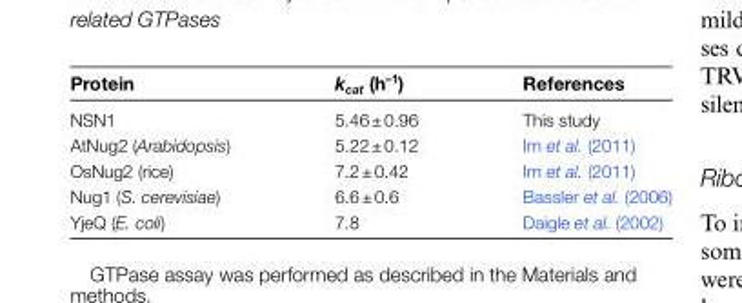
<table><thead><tr><td>Protein</td><td>k<sub>cat</sub> (h<sup>–1</sup>)</td><td>References</td></tr></thead><tbody><tr><td>NSN1</td><td>5.46 ± 0.96</td><td>This study</td></tr><tr><td>AtNug2 (Arabidopsis)</td><td>5.22 ± 0.12</td><td>Im et al. (2011)</td></tr><tr><td>OsNug2 (rice)</td><td>7.2 ± 0.42</td><td>Im et al. (2011)</td></tr><tr><td>Nug1 (S. cerevisiae)</td><td>6.6 ± 0.6</td><td>Bassler et al. (2006)</td></tr><tr><td>YjeQ (E. coli)</td><td>7.8</td><td>Daigle et al. (2002)</td></tr></tbody></table>